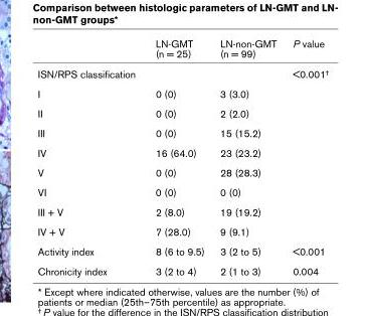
<table><thead><tr><td></td><td>LN-GMT (n = 25)</td><td>LN-non-GMT (n = 99)</td><td>P value</td></tr></thead><tbody><tr><td>ISN/RPS classification</td><td></td><td></td><td>&lt;0.001<sup>†</sup></td></tr><tr><td>I</td><td>0 (0)</td><td>3 (3.0)</td><td></td></tr><tr><td>II</td><td>0 (0)</td><td>2 (2.0)</td><td></td></tr><tr><td>III</td><td>0 (0)</td><td>15 (15.2)</td><td></td></tr><tr><td>IV</td><td>16 (64.0)</td><td>23 (23.2)</td><td></td></tr><tr><td>V</td><td>0 (0)</td><td>28 (28.3)</td><td></td></tr><tr><td>VI</td><td>0 (0)</td><td>0 (0)</td><td></td></tr><tr><td>III + V</td><td>2 (8.0)</td><td>19 (19.2)</td><td></td></tr><tr><td>IV + V</td><td>7 (28.0)</td><td>9 (9.1)</td><td></td></tr><tr><td>Activity index</td><td>8 (6 to 9.5)</td><td>3 (2 to 5)</td><td>&lt;0.001</td></tr><tr><td>Chronicity index</td><td>3 (2 to 4)</td><td>2 (1 to 3)</td><td>0.004</td></tr></tbody></table>